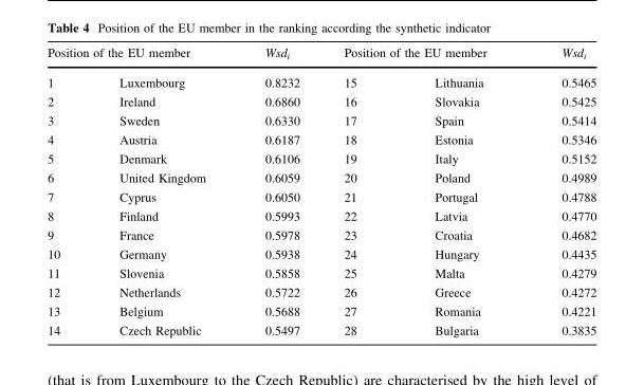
<table><thead><tr><td colspan="2">Position of the EU member</td><td rowspan="2">Wsd<sub>i</sub> 0.8232</td><td colspan="2">Position of the EU member</td><td rowspan="2">Wsd<sub>i</sub> 0.5465</td></tr><tr><td>1</td><td>Luxembourg</td><td>15</td><td>Lithuania</td></tr></thead><tbody><tr><td>2</td><td>Ireland</td><td>0.6860</td><td>16</td><td>Slovakia</td><td>0.5425</td></tr><tr><td>3</td><td>Sweden</td><td>0.6330</td><td>17</td><td>Spain</td><td>0.5414</td></tr><tr><td>4</td><td>Austria</td><td>0.6187</td><td>18</td><td>Estonia</td><td>0.5346</td></tr><tr><td>5</td><td>Denmark</td><td>0.6106</td><td>19</td><td>Italy</td><td>0.5152</td></tr><tr><td>6</td><td>United Kingdom</td><td>0.6059</td><td>20</td><td>Poland</td><td>0.4989</td></tr><tr><td>7</td><td>Cyprus</td><td>0.6050</td><td>21</td><td>Portugal</td><td>0.4788</td></tr><tr><td>8</td><td>Finland</td><td>0.5993</td><td>22</td><td>Latvia</td><td>0.4770</td></tr><tr><td>9</td><td>France</td><td>0.5978</td><td>23</td><td>Croatia</td><td>0.4682</td></tr><tr><td>10</td><td>Germany</td><td>0.5938</td><td>24</td><td>Hungary</td><td>0.4435</td></tr><tr><td>11</td><td>Slovenia</td><td>0.5858</td><td>25</td><td>Malta</td><td>0.4279</td></tr><tr><td>12</td><td>Netherlands</td><td>0.5722</td><td>26</td><td>Greece</td><td>0.4272</td></tr><tr><td>13</td><td>Belgium</td><td>0.5688</td><td>27</td><td>Romania</td><td>0.4221</td></tr><tr><td>14</td><td>Czech Republic</td><td>0.5497</td><td>28</td><td>Bulgaria</td><td>0.3835</td></tr></tbody></table>